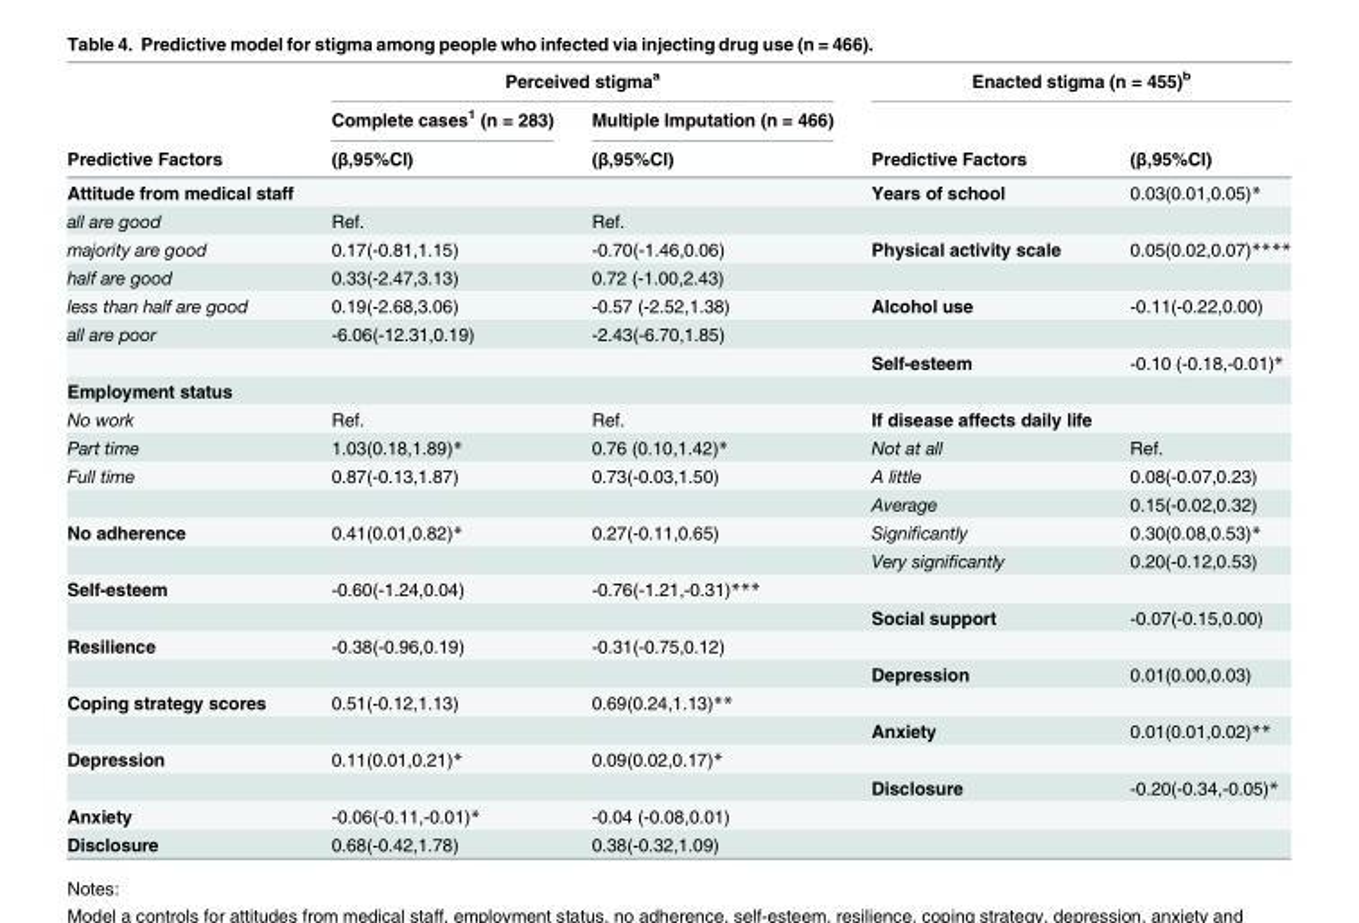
<table><thead><tr><td rowspan="3">Predictive Factors</td><td colspan="2">Perceived stigma<sup>a</sup></td><td colspan="2">Enacted stigma (n = 455)<sup>b</sup></td></tr><tr><td rowspan="2">Complete cases<sup>1</sup> (n = 283) (β,95%CI)</td><td rowspan="2">Multiple Imputation (n = 466) (β,95%CI)</td><td rowspan="2">Predictive Factors</td><td rowspan="2">(β,95%CI)</td></tr><tr></tr></thead><tbody><tr><td>Attitude from medical staff</td><td></td><td></td><td>Years of school</td><td>0.03(0.01,0.05)*</td></tr><tr><td>all are good</td><td>Ref.</td><td>Ref.</td><td></td><td></td></tr><tr><td>majority are good</td><td>0.17(-0.81,1.15)</td><td>-0.70(-1.46,0.06)</td><td>Physical activity scale</td><td>0.05(0.02,0.07)****</td></tr><tr><td>half are good</td><td>0.33(-2.47,3.13)</td><td>0.72 (-1.00,2.43)</td><td></td><td></td></tr><tr><td>less than half are good</td><td>0.19(-2.68,3.06)</td><td>-0.57 (-2.52,1.38)</td><td>Alcohol use</td><td>-0.11(-0.22,0.00)</td></tr><tr><td rowspan="2">all are poor</td><td>-6.06(-12.31,0.19)</td><td>-2.43(-6.70,1.85)</td><td></td><td></td></tr><tr><td></td><td></td><td>Self-esteem</td><td>-0.10 (-0.18,-0.01)*</td></tr><tr><td colspan="5">Employment status</td></tr><tr><td>No work</td><td>Ref.</td><td>Ref.</td><td>If disease affects daily life</td><td></td></tr><tr><td>Part time</td><td>1.03(0.18,1.89)*</td><td>0.76 (0.10,1.42)*</td><td>Not at all</td><td>Ref.</td></tr><tr><td rowspan="2">Full time</td><td>0.87(-0.13,1.87)</td><td>0.73(-0.03,1.50)</td><td>A little</td><td>0.08(-0.07,0.23)</td></tr><tr><td></td><td></td><td>Average</td><td>0.15(-0.02,0.32)</td></tr><tr><td rowspan="2">No adherence</td><td>0.41(0.01,0.82)*</td><td>0.27(-0.11,0.65)</td><td>Significantly</td><td>0.30(0.08,0.53)*</td></tr><tr><td></td><td></td><td>Very significantly</td><td>0.20(-0.12,0.53)</td></tr><tr><td rowspan="2">Self-esteem</td><td>-0.60(-1.24,0.04)</td><td>-0.76(-1.21,-0.31)***</td><td></td><td></td></tr><tr><td></td><td></td><td>Social support</td><td>-0.07(-0.15,0.00)</td></tr><tr><td rowspan="2">Resilience</td><td>-0.38(-0.96,0.19)</td><td>-0.31(-0.75,0.12)</td><td></td><td></td></tr><tr><td></td><td></td><td>Depression</td><td>0.01(0.00,0.03)</td></tr><tr><td rowspan="2">Coping strategy scores</td><td>0.51(-0.12,1.13)</td><td>0.69(0.24,1.13)**</td><td></td><td></td></tr><tr><td></td><td></td><td>Anxiety</td><td>0.01(0.01,0.02)**</td></tr><tr><td rowspan="2">Depression</td><td>0.11(0.01,0.21)*</td><td>0.09(0.02,0.17)*</td><td></td><td></td></tr><tr><td></td><td></td><td>Disclosure</td><td>-0.20(-0.34,-0.05)*</td></tr><tr><td>Anxiety</td><td>-0.06(-0.11,-0.01)*</td><td>-0.04 (-0.08,0.01)</td><td></td><td></td></tr><tr><td>Disclosure</td><td>0.68(-0.42,1.78)</td><td>0.38(-0.32,1.09)</td><td></td><td></td></tr></tbody></table>